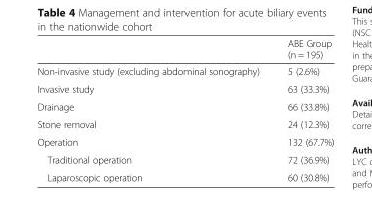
<table><thead><tr><td></td><td>ABE Group (n = 195)</td></tr></thead><tbody><tr><td>Non-invasive study (excluding abdominal sonography)</td><td>5 (2.6%)</td></tr><tr><td>Invasive study</td><td>63 (33.3%)</td></tr><tr><td>Drainage</td><td>66 (33.8%)</td></tr><tr><td>Stone removal</td><td>24 (12.3%)</td></tr><tr><td>Operation</td><td>132 (67.7%)</td></tr><tr><td>Traditional operation</td><td>72 (36.9%)</td></tr><tr><td>Laparoscopic operation</td><td>60 (30.8%)</td></tr></tbody></table>